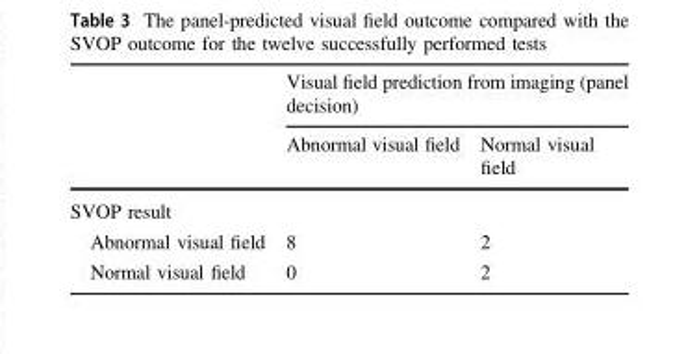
<table><thead><tr><td rowspan="2"></td><td colspan="2">Visual field prediction from imaging (panel decision)</td></tr><tr><td>Abnormal visual field</td><td>Normal visual field</td></tr></thead><tbody><tr><td colspan="3">SVOP result</td></tr><tr><td>Abnormal visual field</td><td>8</td><td>2</td></tr><tr><td>Normal visual field</td><td>0</td><td>2</td></tr></tbody></table>